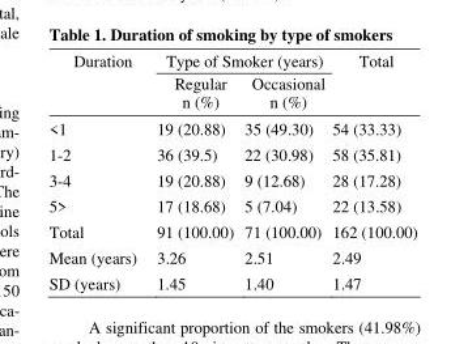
<table><thead><tr><td rowspan="2">Duration</td><td colspan="2">Type of Smoker (years)</td><td rowspan="2">Total</td></tr><tr><td>Regular n (%)</td><td>Occasional n (%)</td></tr></thead><tbody><tr><td>&lt;1</td><td>19 (20.88)</td><td>35 (49.30)</td><td>54 (33.33)</td></tr><tr><td>1-2</td><td>36 (39.5)</td><td>22 (30.98)</td><td>58 (35.81)</td></tr><tr><td>3-4</td><td>19 (20.88)</td><td>9 (12.68)</td><td>28 (17.28)</td></tr><tr><td>5&gt;</td><td>17 (18.68)</td><td>5 (7.04)</td><td>22 (13.58)</td></tr><tr><td>Total</td><td>91 (100.00)</td><td>71 (100.00)</td><td>162 (100.00)</td></tr><tr><td>Mean (years)</td><td>3.26</td><td>2.51</td><td>2.49</td></tr><tr><td>SD (years)</td><td>1.45</td><td>1.40</td><td>1.47</td></tr></tbody></table>